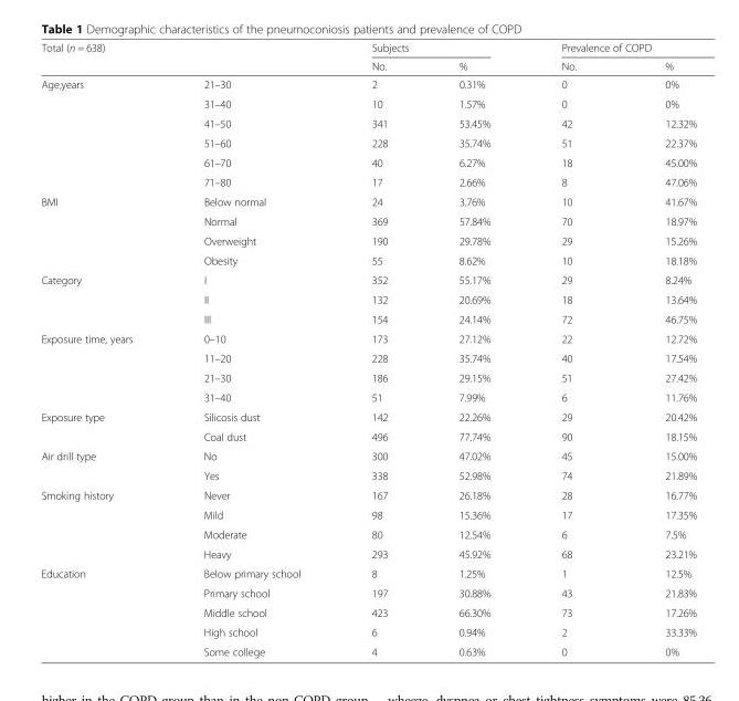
<table><thead><tr><td rowspan="2">Total (n = 638)</td><td rowspan="2"></td><td colspan="2">Subjects</td><td colspan="2">Prevalence of COPD</td></tr><tr><td>No.</td><td>%</td><td>No.</td><td>%</td></tr></thead><tbody><tr><td rowspan="6">Age,years</td><td>21–30</td><td>2</td><td>0.31%</td><td>0</td><td>0%</td></tr><tr><td>31–40</td><td>10</td><td>1.57%</td><td>0</td><td>0%</td></tr><tr><td>41–50</td><td>341</td><td>53.45%</td><td>42</td><td>12.32%</td></tr><tr><td>51–60</td><td>228</td><td>35.74%</td><td>51</td><td>22.37%</td></tr><tr><td>61–70</td><td>40</td><td>6.27%</td><td>18</td><td>45.00%</td></tr><tr><td>71–80</td><td>17</td><td>2.66%</td><td>8</td><td>47.06%</td></tr><tr><td rowspan="4">BMI</td><td>Below normal</td><td>24</td><td>3.76%</td><td>10</td><td>41.67%</td></tr><tr><td>Normal</td><td>369</td><td>57.84%</td><td>70</td><td>18.97%</td></tr><tr><td>Overweight</td><td>190</td><td>29.78%</td><td>29</td><td>15.26%</td></tr><tr><td>Obesity</td><td>55</td><td>8.62%</td><td>10</td><td>18.18%</td></tr><tr><td rowspan="3">Category</td><td>I</td><td>352</td><td>55.17%</td><td>29</td><td>8.24%</td></tr><tr><td>II</td><td>132</td><td>20.69%</td><td>18</td><td>13.64%</td></tr><tr><td>III</td><td>154</td><td>24.14%</td><td>72</td><td>46.75%</td></tr><tr><td rowspan="4">Exposure time, years</td><td>0–10</td><td>173</td><td>27.12%</td><td>22</td><td>12.72%</td></tr><tr><td>11–20</td><td>228</td><td>35.74%</td><td>40</td><td>17.54%</td></tr><tr><td>21–30</td><td>186</td><td>29.15%</td><td>51</td><td>27.42%</td></tr><tr><td>31–40</td><td>51</td><td>7.99%</td><td>6</td><td>11.76%</td></tr><tr><td rowspan="2">Exposure type</td><td>Silicosis dust</td><td>142</td><td>22.26%</td><td>29</td><td>20.42%</td></tr><tr><td>Coal dust</td><td>496</td><td>77.74%</td><td>90</td><td>18.15%</td></tr><tr><td rowspan="2">Air drill type</td><td>No</td><td>300</td><td>47.02%</td><td>45</td><td>15.00%</td></tr><tr><td>Yes</td><td>338</td><td>52.98%</td><td>74</td><td>21.89%</td></tr><tr><td rowspan="4">Smoking history</td><td>Never</td><td>167</td><td>26.18%</td><td>28</td><td>16.77%</td></tr><tr><td>Mild</td><td>98</td><td>15.36%</td><td>17</td><td>17.35%</td></tr><tr><td>Moderate</td><td>80</td><td>12.54%</td><td>6</td><td>7.5%</td></tr><tr><td>Heavy</td><td>293</td><td>45.92%</td><td>68</td><td>23.21%</td></tr><tr><td rowspan="5">Education</td><td>Below primary school</td><td>8</td><td>1.25%</td><td>1</td><td>12.5%</td></tr><tr><td>Primary school</td><td>197</td><td>30.88%</td><td>43</td><td>21.83%</td></tr><tr><td>Middle school</td><td>423</td><td>66.30%</td><td>73</td><td>17.26%</td></tr><tr><td>High school</td><td>6</td><td>0.94%</td><td>2</td><td>33.33%</td></tr><tr><td>Some college</td><td>4</td><td>0.63%</td><td>0</td><td>0%</td></tr></tbody></table>